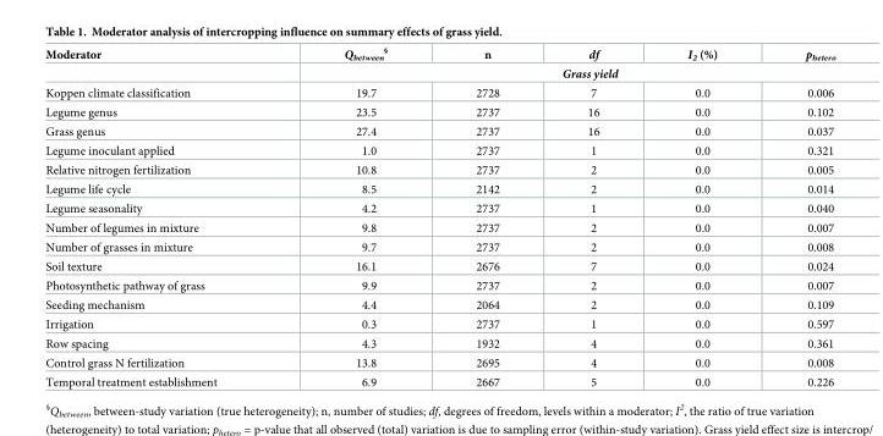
<table><thead><tr><td rowspan="2">Moderator</td><td>Q<sub>between</sub> <sup>§</sup></td><td>n</td><td>df</td><td>I<sub>2</sub> (%)</td><td>p<sub>hetero</sub></td></tr><tr><td colspan="5">Grass yield</td></tr></thead><tbody><tr><td>Koppen climate classification</td><td>19.7</td><td>2728</td><td>7</td><td>0.0</td><td>0.006</td></tr><tr><td>Legume genus</td><td>23.5</td><td>2737</td><td>16</td><td>0.0</td><td>0.102</td></tr><tr><td>Grass genus</td><td>27.4</td><td>2737</td><td>16</td><td>0.0</td><td>0.037</td></tr><tr><td>Legume inoculant applied</td><td>1.0</td><td>2737</td><td>1</td><td>0.0</td><td>0.321</td></tr><tr><td>Relative nitrogen fertilization</td><td>10.8</td><td>2737</td><td>2</td><td>0.0</td><td>0.005</td></tr><tr><td>Legume life cycle</td><td>8.5</td><td>2142</td><td>2</td><td>0.0</td><td>0.014</td></tr><tr><td>Legume seasonality</td><td>4.2</td><td>2737</td><td>1</td><td>0.0</td><td>0.040</td></tr><tr><td>Number of legumes in mixture</td><td>9.8</td><td>2737</td><td>2</td><td>0.0</td><td>0.007</td></tr><tr><td>Number of grasses in mixture</td><td>9.7</td><td>2737</td><td>2</td><td>0.0</td><td>0.008</td></tr><tr><td>Soil texture</td><td>16.1</td><td>2676</td><td>7</td><td>0.0</td><td>0.024</td></tr><tr><td>Photosynthetic pathway of grass</td><td>9.9</td><td>2737</td><td>2</td><td>0.0</td><td>0.007</td></tr><tr><td>Seeding mechanism</td><td>4.4</td><td>2064</td><td>2</td><td>0.0</td><td>0.109</td></tr><tr><td>Irrigation</td><td>0.3</td><td>2737</td><td>1</td><td>0.0</td><td>0.597</td></tr><tr><td>Row spacing</td><td>4.3</td><td>1932</td><td>4</td><td>0.0</td><td>0.361</td></tr><tr><td>Control grass N fertilization</td><td>13.8</td><td>2695</td><td>4</td><td>0.0</td><td>0.008</td></tr><tr><td>Temporal treatment establishment</td><td>6.9</td><td>2667</td><td>5</td><td>0.0</td><td>0.226</td></tr></tbody></table>